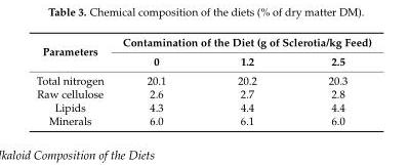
<table><thead><tr><td rowspan="2">Parameters</td><td colspan="3">Contamination of the Diet (g of Sclerotia/kg Feed)</td></tr><tr><td>0</td><td>1.2</td><td>2.5</td></tr></thead><tbody><tr><td>Total nitrogen</td><td>20.1</td><td>20.2</td><td>20.3</td></tr><tr><td>Raw cellulose</td><td>2.6</td><td>2.7</td><td>2.8</td></tr><tr><td>Lipids</td><td>4.3</td><td>4.4</td><td>4.4</td></tr><tr><td>Minerals</td><td>6.0</td><td>6.1</td><td>6.0</td></tr></tbody></table>